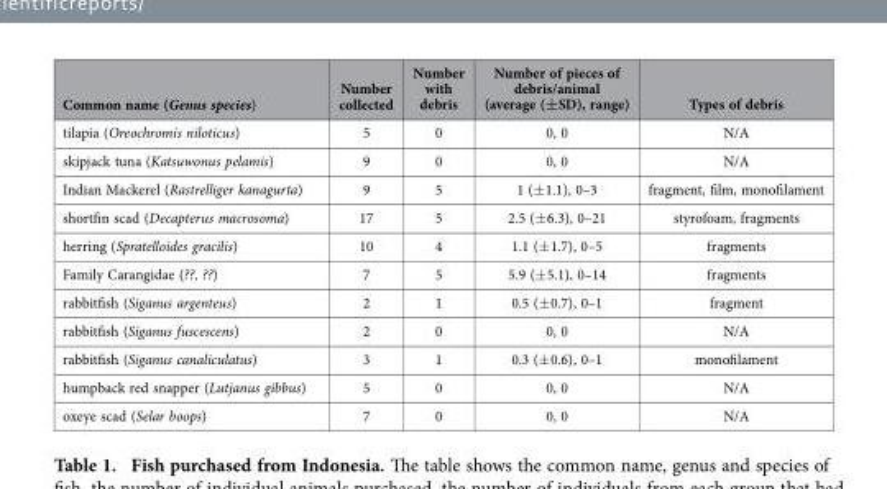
<table><thead><tr><td>Common name (Genus species)</td><td>Number collected</td><td>Number with debris</td><td>Number of pieces of debris/animal (average (±SD), range)</td><td>Types of debris</td></tr></thead><tbody><tr><td>tilapia (Oreochromis niloticus)</td><td>5</td><td>0</td><td>0, 0</td><td>N/A</td></tr><tr><td>skipjack tuna (Katsuwonus pelamis)</td><td>9</td><td>0</td><td>0, 0</td><td>N/A</td></tr><tr><td>Indian Mackerel (Rastrelliger kanagurta)</td><td>9</td><td>5</td><td>1 (± 1.1), 0–3</td><td>fragment, film, monofilament</td></tr><tr><td>shortfin scad (Decapterus macrosoma)</td><td>17</td><td>5</td><td>2.5 (± 6.3), 0–21</td><td>styrofoam, fragments</td></tr><tr><td>herring (Spratelloides gracilis)</td><td>10</td><td>4</td><td>1.1 (± 1.7), 0–5</td><td>fragments</td></tr><tr><td>Family Carangidae (??, ??)</td><td>7</td><td>5</td><td>5.9 (± 5.1), 0–14</td><td>fragments</td></tr><tr><td>rabbitfish (Siganus argenteus)</td><td>2</td><td>1</td><td>0.5 (± 0.7), 0–1</td><td>fragment</td></tr><tr><td>rabbitfish (Siganus fuscescens)</td><td>2</td><td>0</td><td>0, 0</td><td>N/A</td></tr><tr><td>rabbitfish (Siganus canaliculatus)</td><td>3</td><td>1</td><td>0.3 (± 0.6), 0–1</td><td>monofilament</td></tr><tr><td>humpback red snapper (Lutjanus gibbus)</td><td>5</td><td>0</td><td>0, 0</td><td>N/A</td></tr><tr><td>oxeye scad (Selar boops)</td><td>7</td><td>0</td><td>0, 0</td><td>N/A</td></tr></tbody></table>